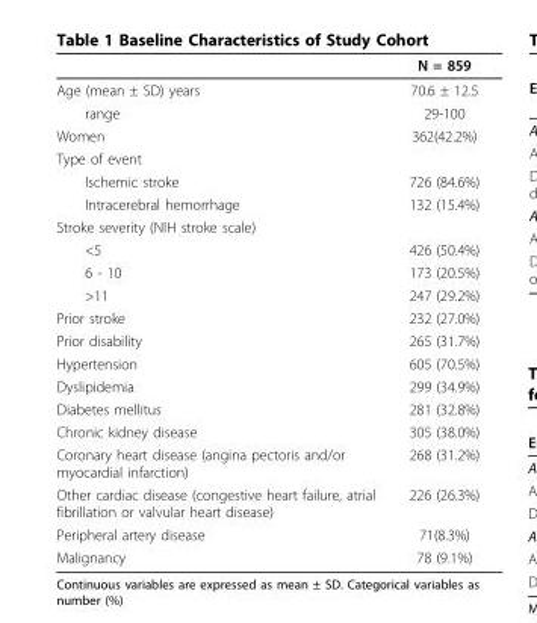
<table><thead><tr><td></td><td>N = 859</td></tr></thead><tbody><tr><td>Age (mean ± SD) years</td><td>70.6 ± 12.5</td></tr><tr><td>range</td><td>29-100</td></tr><tr><td>Women</td><td>362(42.2%)</td></tr><tr><td colspan="2">Type of event</td></tr><tr><td>Ischemic stroke</td><td>726 (84.6%)</td></tr><tr><td>Intracerebral hemorrhage</td><td>132 (15.4%)</td></tr><tr><td colspan="2">Stroke severity (NIH stroke scale)</td></tr><tr><td>&lt;5</td><td>426 (50.4%)</td></tr><tr><td>6 - 10</td><td>173 (20.5%)</td></tr><tr><td>&gt;11</td><td>247 (29.2%)</td></tr><tr><td>Prior stroke</td><td>232 (27.0%)</td></tr><tr><td>Prior disability</td><td>265 (31.7%)</td></tr><tr><td>Hypertension</td><td>605 (70.5%)</td></tr><tr><td>Dyslipidemia</td><td>299 (34.9%)</td></tr><tr><td>Diabetes mellitus</td><td>281 (32.8%)</td></tr><tr><td>Chronic kidney disease</td><td>305 (38.0%)</td></tr><tr><td>Coronary heart disease (angina pectoris and/or myocardial infarction)</td><td>268 (31.2%)</td></tr><tr><td>Other cardiac disease (congestive heart failure, atrial fibrillation or valvular heart disease)</td><td>226 (26.3%)</td></tr><tr><td>Peripheral artery disease</td><td>71(8.3%)</td></tr><tr><td>Malignancy</td><td>78 (9.1%)</td></tr></tbody></table>